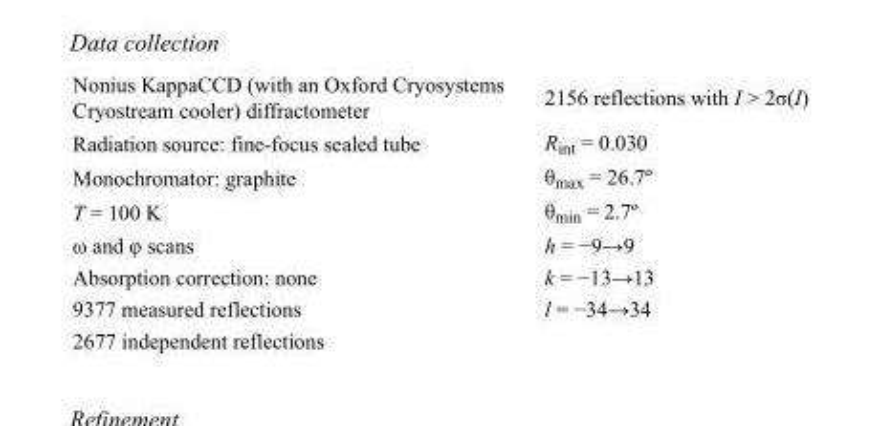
<table><tbody><tr><td>Nonius KappaCCD (with an Oxford Cryosystems Cryostream cooler) diffractometer</td><td>2156 reflections with I &gt; 2σ(I)</td></tr><tr><td>Radiation source: fine-focus sealed tube</td><td>R<sub>int</sub> = 0.030</td></tr><tr><td>Monochromator: graphite</td><td>θ<sub>max</sub> = 26.7º</td></tr><tr><td>T = 100 K</td><td>θ<sub>min</sub> = 2.7º</td></tr><tr><td>ω and φ scans</td><td>h = −9→9</td></tr><tr><td>Absorption correction: none</td><td>k = −13→13</td></tr><tr><td>9377 measured reflections</td><td>l = −34→34</td></tr><tr><td>2677 independent reflections</td><td></td></tr></tbody></table>